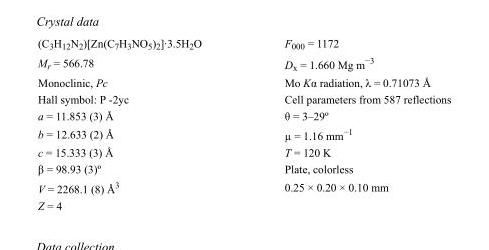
<table><tbody><tr><td>(C<sub>3</sub>H<sub>12</sub>N<sub>2</sub>)[Zn(C<sub>7</sub>H<sub>3</sub>NO<sub>5</sub>)<sub>2</sub>]·3.5H<sub>2</sub>O</td><td>F000 = 1172</td></tr><tr><td>M<sub>r</sub> = 566.78</td><td>D<sub>x</sub> = 1.660 Mg m<sup>−3</sup></td></tr><tr><td>Monoclinic, Pc</td><td>Mo Kα radiation, λ = 0.71073 Å</td></tr><tr><td>Hall symbol: P -2yc</td><td>Cell parameters from 587 reflections</td></tr><tr><td>a = 11.853 (3) Å</td><td>θ = 3–29º</td></tr><tr><td>b = 12.633 (2) Å</td><td>µ = 1.16 mm<sup>−1</sup></td></tr><tr><td>c = 15.333 (3) Å</td><td>T = 120 K</td></tr><tr><td>β = 98.93 (3)º</td><td>Plate, colorless</td></tr><tr><td>V = 2268.1 (8) Å<sup>3</sup></td><td>0.25 × 0.20 × 0.10 mm</td></tr><tr><td>Z = 4</td><td></td></tr></tbody></table>